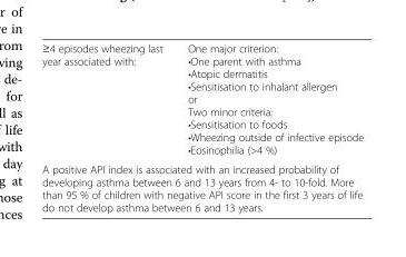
<table><tbody><tr><td>≥4 episodes wheezing last year associated with:</td><td>One major criterion: •One parent with asthma •Atopic dermatitis •Sensitisation to inhalant allergen or Two minor criteria: •Sensitisation to foods •Wheezing outside of infective episode •Eosinophilia (&gt;4 %)</td></tr><tr><td colspan="2">A positive API index is associated with an increased probability of developing asthma between 6 and 13 years from 4- to 10-fold. More than 95 % of children with negative API score in the first 3 years of life do not develop asthma between 6 and 13 years.</td></tr></tbody></table>